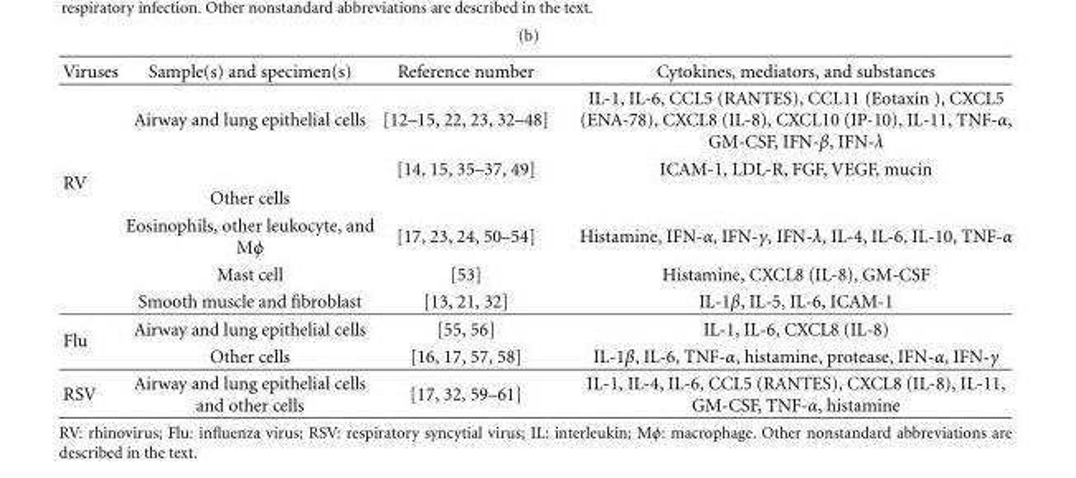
<table><thead><tr><td>Viruses</td><td>Sample(s) and specimen(s)</td><td>Reference number</td><td>Cytokines, mediators, and substances</td></tr></thead><tbody><tr><td rowspan="6">RV</td><td>Airway and lung epithelial cells</td><td>[12–15, 22, 23, 32–48]</td><td>IL-1, IL-6, CCL5 (RANTES), CCL11 (Eotaxin ), CXCL5 (ENA-78), CXCL8 (IL-8), CXCL10 (IP-10), IL-11, TNF-α, GM-CSF, IFN-β, IFN-λ</td></tr><tr><td></td><td>[14, 15, 35–37, 49]</td><td>ICAM-1, LDL-R, FGF, VEGF, mucin</td></tr><tr><td>Other cells</td><td></td><td></td></tr><tr><td>Eosinophils, other leukocyte, and Mφ</td><td>[17, 23, 24, 50–54]</td><td>Histamine, IFN-α, IFN-γ, IFN-λ, IL-4, IL-6, IL-10, TNF-α</td></tr><tr><td>Mast cell</td><td>[53]</td><td>Histamine, CXCL8 (IL-8), GM-CSF</td></tr><tr><td>Smooth muscle and fibroblast</td><td>[13, 21, 32]</td><td>IL-1β, IL-5, IL-6, ICAM-1</td></tr><tr><td rowspan="2">Flu</td><td>Airway and lung epithelial cells</td><td>[55, 56]</td><td>IL-1, IL-6, CXCL8 (IL-8)</td></tr><tr><td>Other cells</td><td>[16, 17, 57, 58]</td><td>IL-1β, IL-6, TNF-α, histamine, protease, IFN-α, IFN-γ</td></tr><tr><td>RSV</td><td>Airway and lung epithelial cells and other cells</td><td>[17, 32, 59–61]</td><td>IL-1, IL-4, IL-6, CCL5 (RANTES), CXCL8 (IL-8), IL-11, GM-CSF, TNF-α, histamine</td></tr></tbody></table>